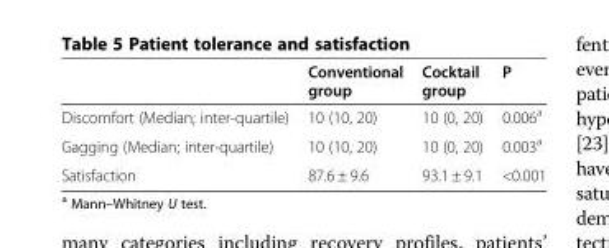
<table><thead><tr><td></td><td>Conventional group</td><td>Cocktail group</td><td>P</td></tr></thead><tbody><tr><td>Discomfort (Median; inter-quartile)</td><td>10 (10, 20)</td><td>10 (0, 20)</td><td>0.006<sup>a</sup></td></tr><tr><td>Gagging (Median; inter-quartile)</td><td>10 (10, 20)</td><td>10 (0, 20)</td><td>0.003<sup>a</sup></td></tr><tr><td>Satisfaction</td><td>87.6 ± 9.6</td><td>93.1 ± 9.1</td><td>&lt;0.001</td></tr></tbody></table>